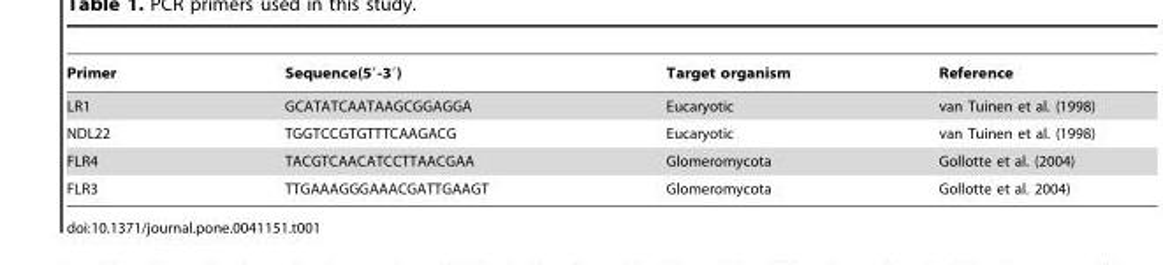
<table><thead><tr><td>Primer</td><td>Sequence(5′-3′)</td><td>Target organism</td><td>Reference</td></tr></thead><tbody><tr><td>LR1</td><td>GCATATCAATAAGCGGAGGA</td><td>Eucaryotic</td><td>van Tuinen et al. (1998)</td></tr><tr><td>NDL22</td><td>TGGTCCGTGTTTCAAGACG</td><td>Eucaryotic</td><td>van Tuinen et al. (1998)</td></tr><tr><td>FLR4</td><td>TACGTCAACATCCTTAACGAA</td><td>Glomeromycota</td><td>Gollotte et al. (2004)</td></tr><tr><td>FLR3</td><td>TTGAAAGGGAAACGATTGAAGT</td><td>Glomeromycota</td><td>Gollotte et al. 2004)</td></tr></tbody></table>